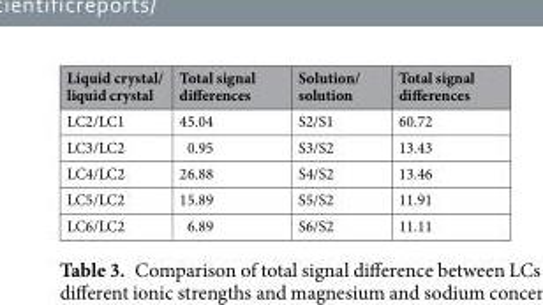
<table><thead><tr><td>Liquid crystal/ liquid crystal</td><td>Total signal differences</td><td>Solution/ solution</td><td>Total signal differences</td></tr></thead><tbody><tr><td>LC2/LC1</td><td>45.04</td><td>S2/S1</td><td>60.72</td></tr><tr><td>LC3/LC2</td><td>0.95</td><td>S3/S2</td><td>13.43</td></tr><tr><td>LC4/LC2</td><td>26.88</td><td>S4/S2</td><td>13.46</td></tr><tr><td>LC5/LC2</td><td>15.89</td><td>S5/S2</td><td>11.91</td></tr><tr><td>LC6/LC2</td><td>6.89</td><td>S6/S2</td><td>11.11</td></tr></tbody></table>